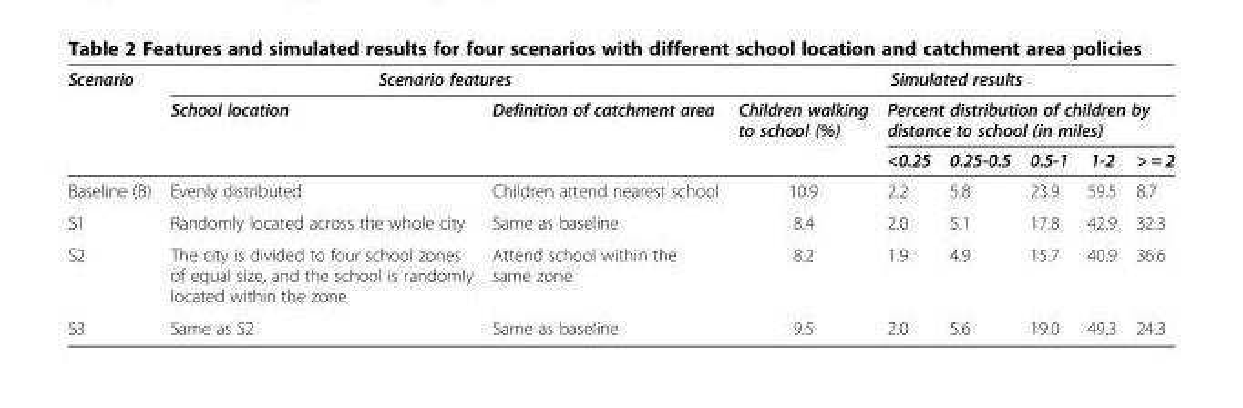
<table><thead><tr><td rowspan="3">Scenario</td><td colspan="2">Scenario features</td><td colspan="6">Simulated results</td></tr><tr><td rowspan="2">School location</td><td rowspan="2">Definition of catchment area</td><td rowspan="2">Children walking to school (%)</td><td colspan="5">Percent distribution of children by distance to school (in miles)</td></tr><tr><td>&lt;0.25</td><td>0.25-0.5</td><td>0.5-1</td><td>1-2</td><td>&gt; = 2</td></tr></thead><tbody><tr><td>Baseline (B)</td><td>Evenly distributed</td><td>Children attend nearest school</td><td>10.9</td><td>2.2</td><td>5.8</td><td>23.9</td><td>59.5</td><td>8.7</td></tr><tr><td>S1</td><td>Randomly located across the whole city</td><td>Same as baseline</td><td>8.4</td><td>2.0</td><td>5.1</td><td>17.8</td><td>42.9</td><td>32.3</td></tr><tr><td>S2</td><td>The city is divided to four school zones of equal size, and the school is randomly located within the zone</td><td>Attend school within the same zone</td><td>8.2</td><td>1.9</td><td>4.9</td><td>15.7</td><td>40.9</td><td>36.6</td></tr><tr><td>S3</td><td>Same as S2</td><td>Same as baseline</td><td>9.5</td><td>2.0</td><td>5.6</td><td>19.0</td><td>49.3</td><td>24.3</td></tr></tbody></table>